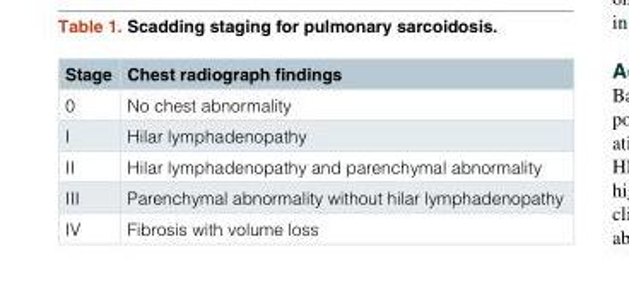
<table><thead><tr><td>Stage</td><td>Chest radiograph findings</td></tr></thead><tbody><tr><td>0</td><td>No chest abnormality</td></tr><tr><td>I</td><td>Hilar lymphadenopathy</td></tr><tr><td>II</td><td>Hilar lymphadenopathy and parenchymal abnormality</td></tr><tr><td>III</td><td>Parenchymal abnormality without hilar lymphadenopathy</td></tr><tr><td>IV</td><td>Fibrosis with volume loss</td></tr></tbody></table>